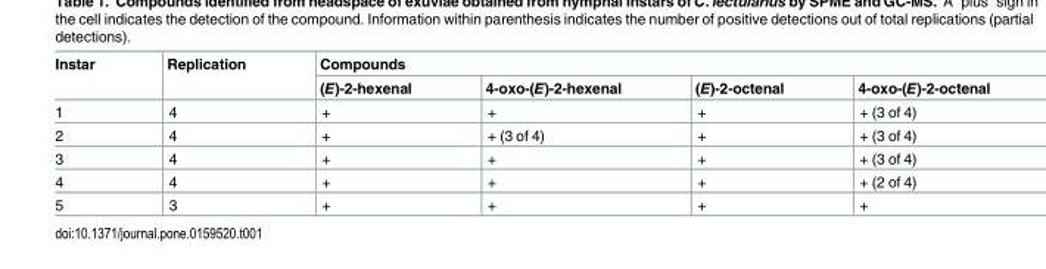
<table><thead><tr><td rowspan="2">Instar</td><td rowspan="2">Replication</td><td colspan="4">Compounds</td></tr><tr><td>(E)-2-hexenal</td><td>4-oxo-(E)-2-hexenal</td><td>(E)-2-octenal</td><td>4-oxo-(E)-2-octenal</td></tr></thead><tbody><tr><td>1</td><td>4</td><td>+</td><td>+</td><td>+</td><td>+ (3 of 4)</td></tr><tr><td>2</td><td>4</td><td>+</td><td>+ (3 of 4)</td><td>+</td><td>+ (3 of 4)</td></tr><tr><td>3</td><td>4</td><td>+</td><td>+</td><td>+</td><td>+ (3 of 4)</td></tr><tr><td>4</td><td>4</td><td>+</td><td>+</td><td>+</td><td>+ (2 of 4)</td></tr><tr><td>5</td><td>3</td><td>+</td><td>+</td><td>+</td><td>+</td></tr></tbody></table>